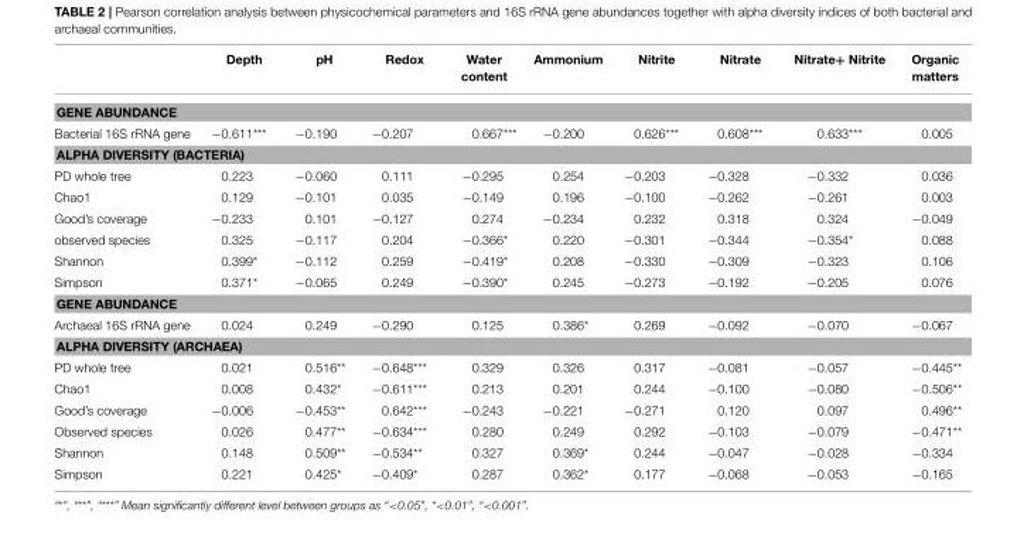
<table><thead><tr><td></td><td>Depth</td><td>pH</td><td>Redox</td><td>Water content</td><td>Ammonium</td><td>Nitrite</td><td>Nitrate</td><td>Nitrate+ Nitrite</td><td>Organic matters</td></tr></thead><tbody><tr><td colspan="10">GENE ABUNDANCE</td></tr><tr><td>Bacterial 16S rRNA gene</td><td>−0.611***</td><td>−0.190</td><td>−0.207</td><td>0.667***</td><td>−0.200</td><td>0.626***</td><td>0.608***</td><td>0.633***</td><td>0.005</td></tr><tr><td colspan="10">ALPHA DIVERSITY (BACTERIA)</td></tr><tr><td>PD whole tree</td><td>0.223</td><td>−0.060</td><td>0.111</td><td>−0.295</td><td>0.254</td><td>−0.203</td><td>−0.328</td><td>−0.332</td><td>0.036</td></tr><tr><td>Chao1</td><td>0.129</td><td>−0.101</td><td>0.035</td><td>−0.149</td><td>0.196</td><td>−0.100</td><td>−0.262</td><td>−0.261</td><td>0.003</td></tr><tr><td>Good’s coverage</td><td>−0.233</td><td>0.101</td><td>−0.127</td><td>0.274</td><td>−0.234</td><td>0.232</td><td>0.318</td><td>0.324</td><td>−0.049</td></tr><tr><td>observed species</td><td>0.325</td><td>−0.117</td><td>0.204</td><td>−0.366*</td><td>0.220</td><td>−0.301</td><td>−0.344</td><td>−0.354*</td><td>0.088</td></tr><tr><td>Shannon</td><td>0.399*</td><td>−0.112</td><td>0.259</td><td>−0.419*</td><td>0.208</td><td>−0.330</td><td>−0.309</td><td>−0.323</td><td>0.106</td></tr><tr><td>Simpson</td><td>0.371*</td><td>−0.065</td><td>0.249</td><td>−0.390*</td><td>0.245</td><td>−0.273</td><td>−0.192</td><td>−0.205</td><td>0.076</td></tr><tr><td colspan="10">GENE ABUNDANCE</td></tr><tr><td>Archaeal 16S rRNA gene</td><td>0.024</td><td>0.249</td><td>−0.290</td><td>0.125</td><td>0.386*</td><td>0.269</td><td>−0.092</td><td>−0.070</td><td>−0.067</td></tr><tr><td colspan="10">ALPHA DIVERSITY (ARCHAEA)</td></tr><tr><td>PD whole tree</td><td>0.021</td><td>0.516**</td><td>−0.648***</td><td>0.329</td><td>0.326</td><td>0.317</td><td>−0.081</td><td>−0.057</td><td>−0.445**</td></tr><tr><td>Chao1</td><td>0.008</td><td>0.432*</td><td>−0.611***</td><td>0.213</td><td>0.201</td><td>0.244</td><td>−0.100</td><td>−0.080</td><td>−0.506**</td></tr><tr><td>Good’s coverage</td><td>−0.006</td><td>−0.453**</td><td>0.642***</td><td>−0.243</td><td>−0.221</td><td>−0.271</td><td>0.120</td><td>0.097</td><td>0.496**</td></tr><tr><td>Observed species</td><td>0.026</td><td>0.477**</td><td>−0.634***</td><td>0.280</td><td>0.249</td><td>0.292</td><td>−0.103</td><td>−0.079</td><td>−0.471**</td></tr><tr><td>Shannon</td><td>0.148</td><td>0.509**</td><td>−0.534**</td><td>0.327</td><td>0.369*</td><td>0.244</td><td>−0.047</td><td>−0.028</td><td>−0.334</td></tr><tr><td>Simpson</td><td>0.221</td><td>0.425*</td><td>−0.409*</td><td>0.287</td><td>0.362*</td><td>0.177</td><td>−0.068</td><td>−0.053</td><td>−0.165</td></tr></tbody></table>